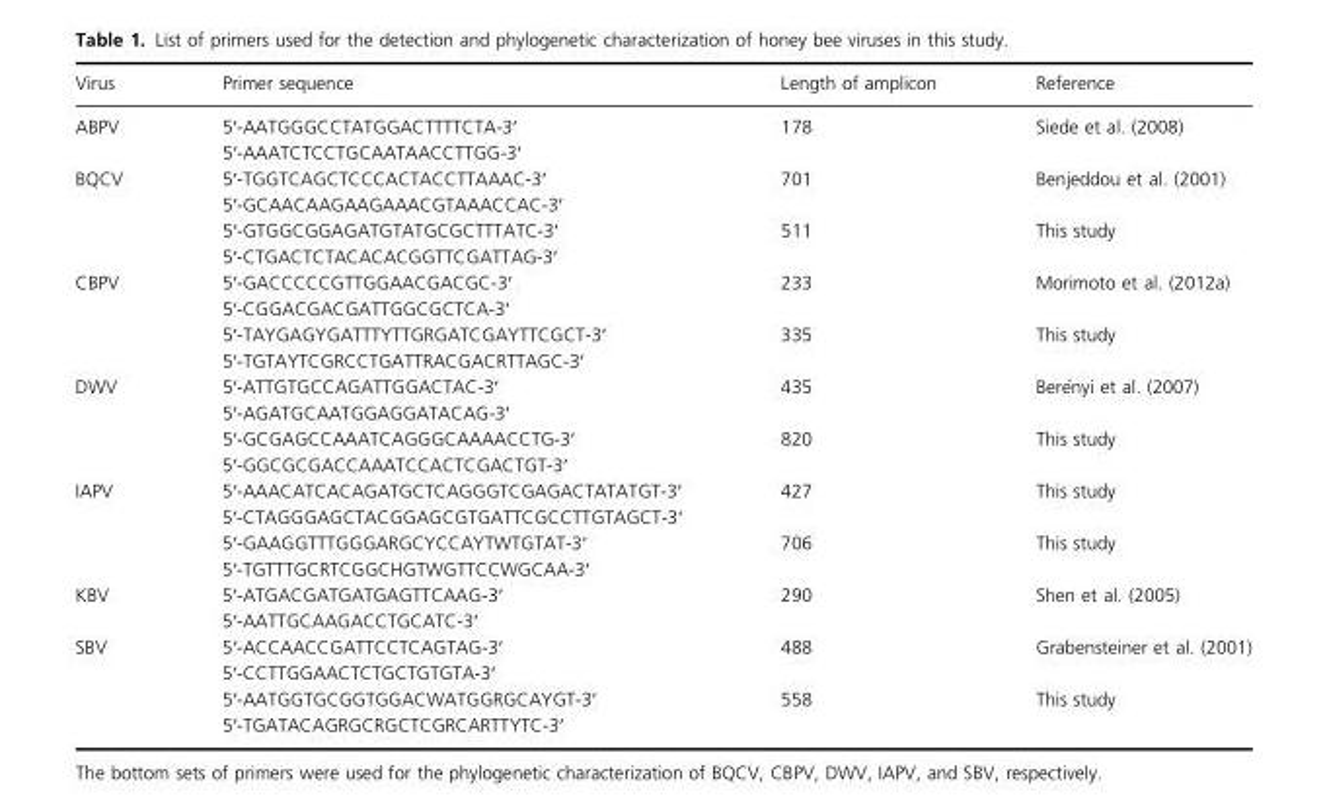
<table><thead><tr><td>Virus</td><td>Primer sequence</td><td>Length of amplicon</td><td>Reference</td></tr></thead><tbody><tr><td rowspan="2">ABPV</td><td>5′-AATGGGCCTATGGACTTTTCTA-3′</td><td>178</td><td>Siede et al. (2008)</td></tr><tr><td>5′-AAATCTCCTGCAATAACCTTGG-3′</td><td></td><td></td></tr><tr><td rowspan="4">BQCV</td><td>5′-TGGTCAGCTCCCACTACCTTAAAC-3′</td><td>701</td><td>Benjeddou et al. (2001)</td></tr><tr><td>5′-GCAACAAGAAGAAACGTAAACCAC-3′</td><td></td><td></td></tr><tr><td>5′-GTGGCGGAGATGTATGCGCTTTATC-3′</td><td>511</td><td>This study</td></tr><tr><td>5′-CTGACTCTACACACGGTTCGATTAG-3′</td><td></td><td></td></tr><tr><td rowspan="4">CBPV</td><td>5′-GACCCCCGTTGGAACGACGC-3′</td><td>233</td><td>Morimoto et al. (2012a)</td></tr><tr><td>5′-CGGACGACGATTGGCGCTCA-3′</td><td></td><td></td></tr><tr><td>5′-TAYGAGYGATTTYTTGRGATCGAYTTCGCT-3′</td><td>335</td><td>This study</td></tr><tr><td>5′-TGTAYTCGRCCTGATTRACGACRTTAGC-3′</td><td></td><td></td></tr><tr><td rowspan="4">DWV</td><td>5′-ATTGTGCCAGATTGGACTAC-3′</td><td>435</td><td>Ber�enyi et al. (2007)</td></tr><tr><td>5′-AGATGCAATGGAGGATACAG-3′</td><td></td><td></td></tr><tr><td>5′-GCGAGCCAAATCAGGGCAAAACCTG-3′</td><td>820</td><td>This study</td></tr><tr><td>5′-GGCGCGACCAAATCCACTCGACTGT-3′</td><td></td><td></td></tr><tr><td rowspan="4">IAPV</td><td>5′-AAACATCACAGATGCTCAGGGTCGAGACTATATGT-3′</td><td>427</td><td>This study</td></tr><tr><td>5′-CTAGGGAGCTACGGAGCGTGATTCGCCTTGTAGCT-3′</td><td></td><td></td></tr><tr><td>5′-GAAGGTTTGGGARGCYCCAYTWTGTAT-3′</td><td>706</td><td>This study</td></tr><tr><td>5′-TGTTTGCRTCGGCHGTWGTTCCWGCAA-3′</td><td></td><td></td></tr><tr><td rowspan="2">KBV</td><td>5′-ATGACGATGATGAGTTCAAG-3′</td><td>290</td><td>Shen et al. (2005)</td></tr><tr><td>5′-AATTGCAAGACCTGCATC-3′</td><td></td><td></td></tr><tr><td rowspan="4">SBV</td><td>5′-ACCAACCGATTCCTCAGTAG-3′</td><td>488</td><td>Grabensteiner et al. (2001)</td></tr><tr><td>5′-CCTTGGAACTCTGCTGTGTA-3′</td><td></td><td></td></tr><tr><td>5′-AATGGTGCGGTGGACWATGGRGCAYGT-3′</td><td>558</td><td>This study</td></tr><tr><td>5′-TGATACAGRGCRGCTCGRCARTTYTC-3′</td><td></td><td></td></tr></tbody></table>